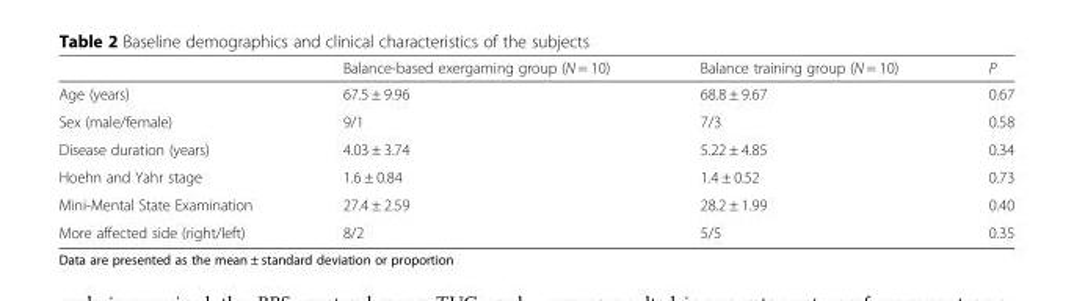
<table><thead><tr><td></td><td>Balance-based exergaming group (N = 10)</td><td>Balance training group (N = 10)</td><td>P</td></tr></thead><tbody><tr><td>Age (years)</td><td>67.5 ± 9.96</td><td>68.8 ± 9.67</td><td>0.67</td></tr><tr><td>Sex (male/female)</td><td>9/1</td><td>7/3</td><td>0.58</td></tr><tr><td>Disease duration (years)</td><td>4.03 ± 3.74</td><td>5.22 ± 4.85</td><td>0.34</td></tr><tr><td>Hoehn and Yahr stage</td><td>1.6 ± 0.84</td><td>1.4 ± 0.52</td><td>0.73</td></tr><tr><td>Mini-Mental State Examination</td><td>27.4 ± 2.59</td><td>28.2 ± 1.99</td><td>0.40</td></tr><tr><td>More affected side (right/left)</td><td>8/2</td><td>5/5</td><td>0.35</td></tr></tbody></table>